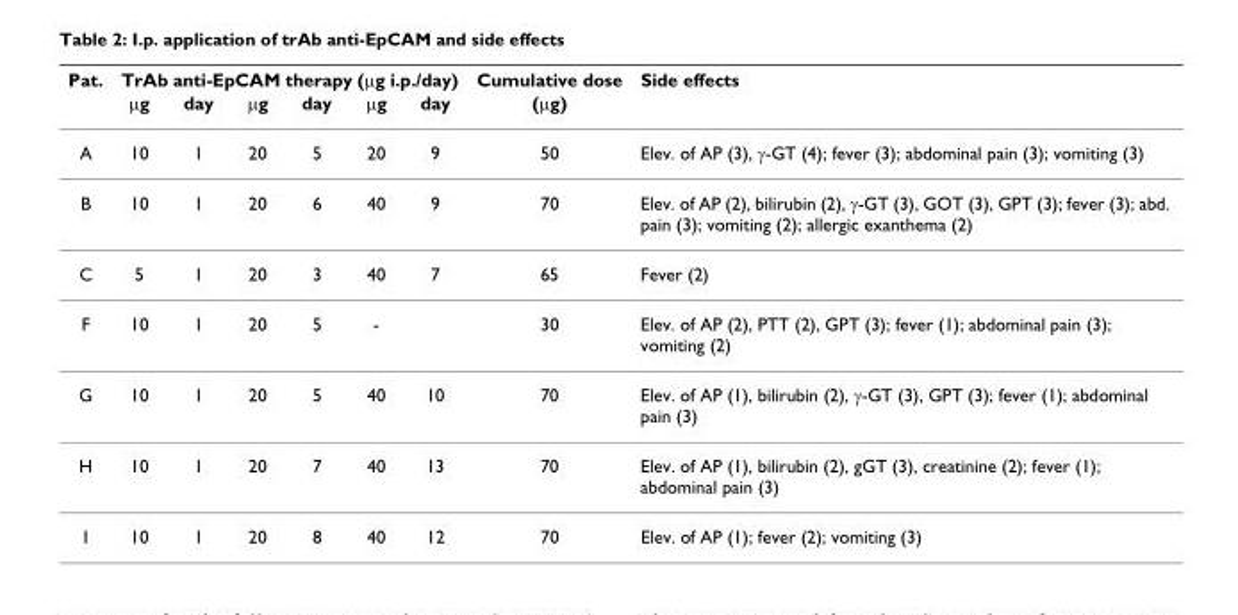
<table><thead><tr><td rowspan="2">Pat.</td><td colspan="6">TrAb anti-EpCAM therapy (μg i.p./day)</td><td rowspan="2">Cumulative dose (μg)</td><td rowspan="2">Side effects</td></tr><tr><td>μg</td><td>day</td><td>μg</td><td>day</td><td>μg</td><td>day</td></tr></thead><tbody><tr><td>A</td><td>10</td><td>1</td><td>20</td><td>5</td><td>20</td><td>9</td><td>50</td><td>Elev. of AP (3), γ-GT (4); fever (3); abdominal pain (3); vomiting (3)</td></tr><tr><td>B</td><td>10</td><td>1</td><td>20</td><td>6</td><td>40</td><td>9</td><td>70</td><td>Elev. of AP (2), bilirubin (2), γ-GT (3), GOT (3), GPT (3); fever (3); abd. pain (3); vomiting (2); allergic exanthema (2)</td></tr><tr><td>C</td><td>5</td><td>1</td><td>20</td><td>3</td><td>40</td><td>7</td><td>65</td><td>Fever (2)</td></tr><tr><td>F</td><td>10</td><td>1</td><td>20</td><td>5</td><td>-</td><td></td><td>30</td><td>Elev. of AP (2), PTT (2), GPT (3); fever (1); abdominal pain (3); vomiting (2)</td></tr><tr><td>G</td><td>10</td><td>1</td><td>20</td><td>5</td><td>40</td><td>10</td><td>70</td><td>Elev. of AP (1), bilirubin (2), γ-GT (3), GPT (3); fever (1); abdominal pain (3)</td></tr><tr><td>H</td><td>10</td><td>1</td><td>20</td><td>7</td><td>40</td><td>13</td><td>70</td><td>Elev. of AP (1), bilirubin (2), gGT (3), creatinine (2); fever (1); abdominal pain (3)</td></tr><tr><td>I</td><td>10</td><td>1</td><td>20</td><td>8</td><td>40</td><td>12</td><td>70</td><td>Elev. of AP (1); fever (2); vomiting (3)</td></tr></tbody></table>